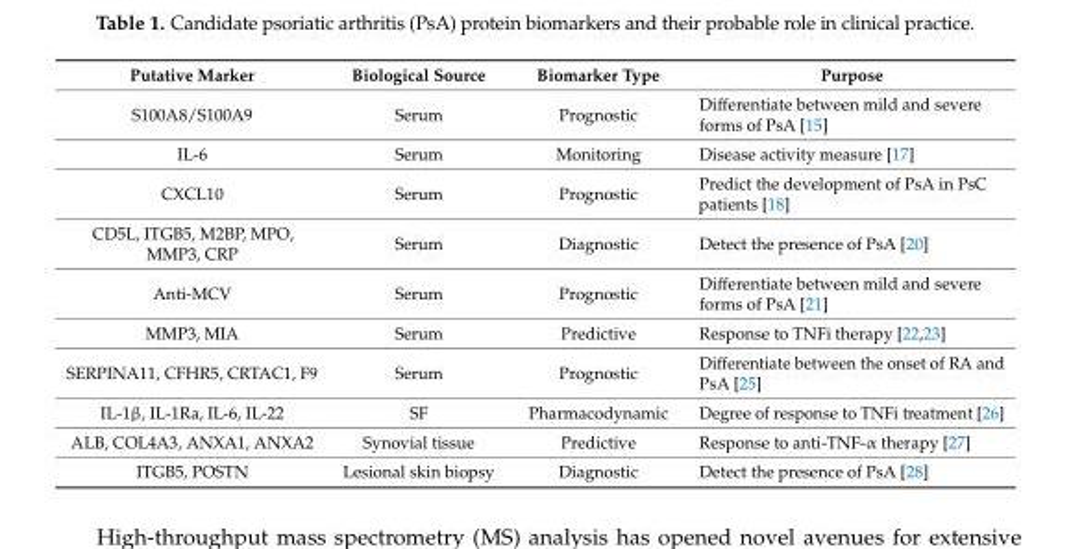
<table><thead><tr><td>Putative Marker</td><td>Biological Source</td><td>Biomarker Type</td><td>Purpose</td></tr></thead><tbody><tr><td>S100A8/S100A9</td><td>Serum</td><td>Prognostic</td><td>Differentiate between mild and severe forms of PsA [15]</td></tr><tr><td>IL-6</td><td>Serum</td><td>Monitoring</td><td>Disease activity measure [17]</td></tr><tr><td>CXCL10</td><td>Serum</td><td>Prognostic</td><td>Predict the development of PsA in PsC patients [18]</td></tr><tr><td>CD5L, ITGB5, M2BP, MPO, MMP3, CRP</td><td>Serum</td><td>Diagnostic</td><td>Detect the presence of PsA [20]</td></tr><tr><td>Anti-MCV</td><td>Serum</td><td>Prognostic</td><td>Differentiate between mild and severe forms of PsA [21]</td></tr><tr><td>MMP3, MIA</td><td>Serum</td><td>Predictive</td><td>Response to TNFi therapy [22,23]</td></tr><tr><td>SERPINA11, CFHR5, CRTAC1, F9</td><td>Serum</td><td>Prognostic</td><td>Differentiate between the onset of RA and PsA [25]</td></tr><tr><td>IL-1β, IL-1Ra, IL-6, IL-22</td><td>SF</td><td>Pharmacodynamic</td><td>Degree of response to TNFi treatment [26]</td></tr><tr><td>ALB, COL4A3, ANXA1, ANXA2</td><td>Synovial tissue</td><td>Predictive</td><td>Response to anti-TNF-α therapy [27]</td></tr><tr><td>ITGB5, POSTN</td><td>Lesional skin biopsy</td><td>Diagnostic</td><td>Detect the presence of PsA [28]</td></tr></tbody></table>